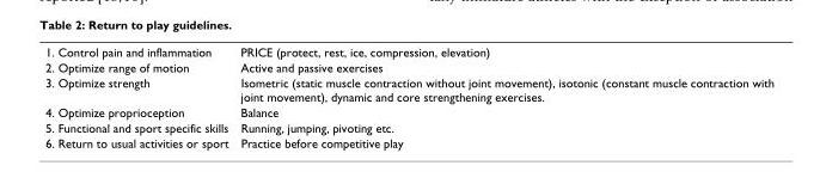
<table><tbody><tr><td>1. Control pain and inflammation</td><td>PRICE (protect, rest, ice, compression, elevation)</td></tr><tr><td>2. Optimize range of motion</td><td>Active and passive exercises</td></tr><tr><td>3. Optimize strength</td><td>Isometric (static muscle contraction without joint movement), isotonic (constant muscle contraction with joint movement), dynamic and core strengthening exercises.</td></tr><tr><td>4. Optimize proprioception</td><td>Balance</td></tr><tr><td>5. Functional and sport specific skills</td><td>Running, jumping, pivoting etc.</td></tr><tr><td>6. Return to usual activities or sport</td><td>Practice before competitive play</td></tr></tbody></table>